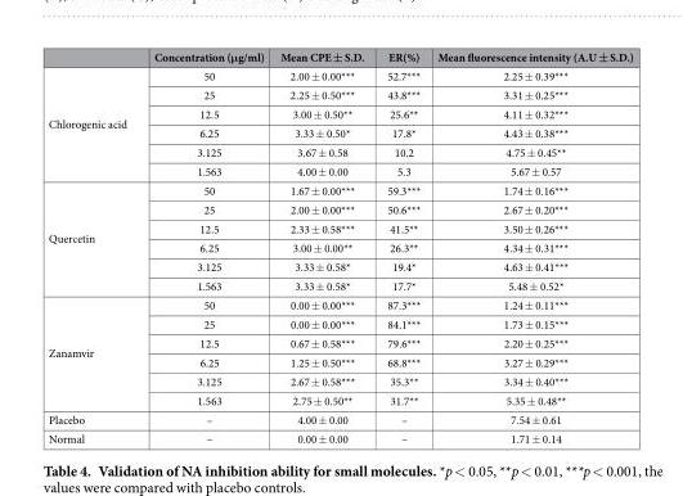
<table><thead><tr><td></td><td>Concentration (μg/ml)</td><td>Mean CPE ± S.D.</td><td>ER(%)</td><td>Mean fluorescence intensity (A.U ± S.D.)</td></tr></thead><tbody><tr><td rowspan="6">Chlorogenic acid</td><td>50</td><td>2.00 ± 0.00***</td><td>52.7***</td><td>2.25 ± 0.39***</td></tr><tr><td>25</td><td>2.25 ± 0.50***</td><td>43.8***</td><td>3.31 ± 0.25***</td></tr><tr><td>12.5</td><td>3.00 ± 0.50**</td><td>25.6**</td><td>4.11 ± 0.32***</td></tr><tr><td>6.25</td><td>3.33 ± 0.50*</td><td>17.8*</td><td>4.43 ± 0.38***</td></tr><tr><td>3.125</td><td>3.67 ± 0.58</td><td>10.2</td><td>4.75 ± 0.45**</td></tr><tr><td>1.563</td><td>4.00 ± 0.00</td><td>5.3</td><td>5.67 ± 0.57</td></tr><tr><td rowspan="6">Quercetin</td><td>50</td><td>1.67 ± 0.00***</td><td>59.3***</td><td>1.74 ± 0.16***</td></tr><tr><td>25</td><td>2.00 ± 0.00***</td><td>50.6***</td><td>2.67 ± 0.20***</td></tr><tr><td>12.5</td><td>2.33 ± 0.58***</td><td>41.5**</td><td>3.50 ± 0.26***</td></tr><tr><td>6.25</td><td>3.00 ± 0.00**</td><td>26.3**</td><td>4.34 ± 0.31***</td></tr><tr><td>3.125</td><td>3.33 ± 0.58*</td><td>19.4*</td><td>4.63 ± 0.41***</td></tr><tr><td>1.563</td><td>3.33 ± 0.58*</td><td>17.7*</td><td>5.48 ± 0.52*</td></tr><tr><td rowspan="6">Zanamvir</td><td>50</td><td>0.00 ± 0.00***</td><td>87.3***</td><td>1.24 ± 0.11***</td></tr><tr><td>25</td><td>0.00 ± 0.00***</td><td>84.1***</td><td>1.73 ± 0.15***</td></tr><tr><td>12.5</td><td>0.67 ± 0.58***</td><td>79.6***</td><td>2.20 ± 0.25***</td></tr><tr><td>6.25</td><td>1.25 ± 0.50***</td><td>68.8***</td><td>3.27 ± 0.29***</td></tr><tr><td>3.125</td><td>2.67 ± 0.58***</td><td>35.3**</td><td>3.34 ± 0.40***</td></tr><tr><td>1.563</td><td>2.75 ± 0.50**</td><td>31.7**</td><td>5.35 ± 0.48**</td></tr><tr><td>Placebo</td><td>–</td><td>4.00 ± 0.00</td><td>–</td><td>7.54 ± 0.61</td></tr><tr><td>Normal</td><td>–</td><td>0.00 ± 0.00</td><td>–</td><td>1.71 ± 0.14</td></tr></tbody></table>